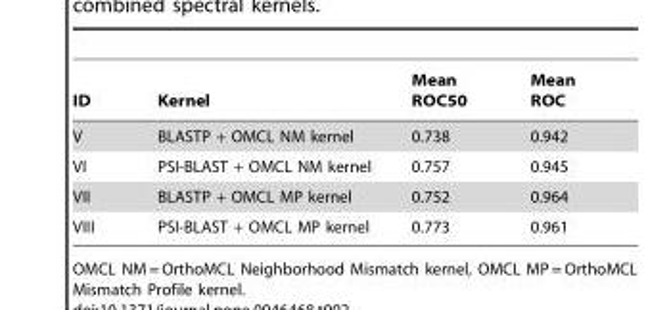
<table><thead><tr><td>ID</td><td>Kernel</td><td>Mean ROC50</td><td>Mean ROC</td></tr></thead><tbody><tr><td>V</td><td>BLASTP + OMCL NM kernel</td><td>0.738</td><td>0.942</td></tr><tr><td>VI</td><td>PSI-BLAST + OMCL NM kernel</td><td>0.757</td><td>0.945</td></tr><tr><td>VII</td><td>BLASTP + OMCL MP kernel</td><td>0.752</td><td>0.964</td></tr><tr><td>VIII</td><td>PSI-BLAST + OMCL MP kernel</td><td>0.773</td><td>0.961</td></tr></tbody></table>